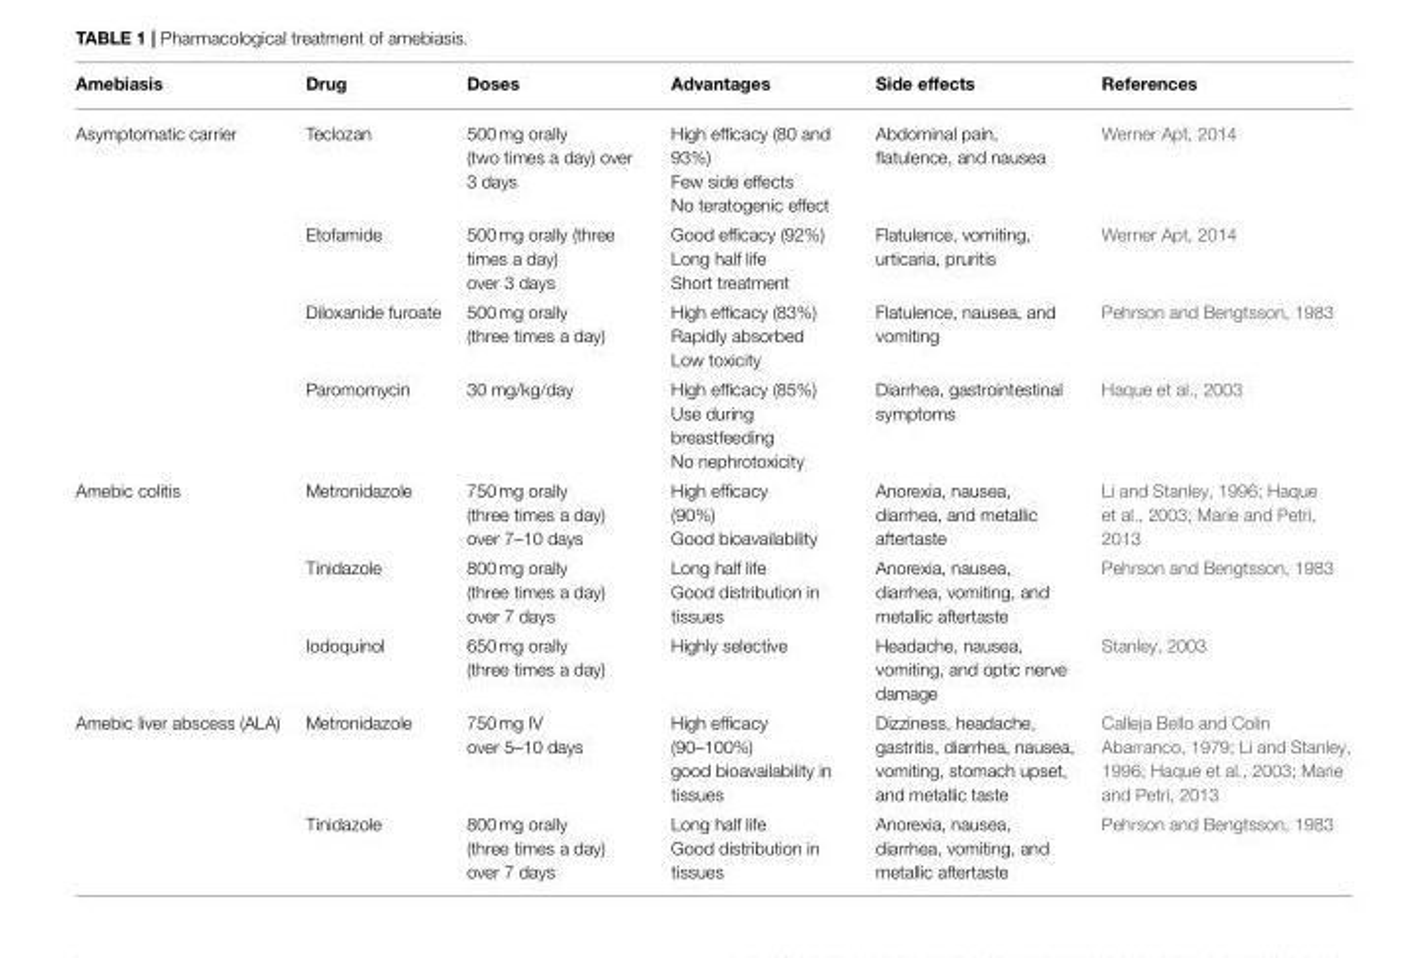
<table><thead><tr><td>Amebiasis</td><td>Drug</td><td>Doses</td><td>Advantages</td><td>Side effects</td><td>References</td></tr></thead><tbody><tr><td rowspan="4">Asymptomatic carrier</td><td>Teclozan</td><td>500 mg orally (two times a day) over 3 days</td><td>High efficacy (80 and 93%) Few side effects No teratogenic effect</td><td>Abdominal pain, flatulence, and nausea</td><td>Werner Apt, 2014</td></tr><tr><td>Etofamide</td><td>500 mg orally (three times a day) over 3 days</td><td>Good efficacy (92%) Long half life Short treatment</td><td>Flatulence, vomiting, urticaria, pruritis</td><td>Werner Apt, 2014</td></tr><tr><td>Diloxanide furoate</td><td>500 mg orally (three times a day)</td><td>High efficacy (83%) Rapidly absorbed Low toxicity</td><td>Flatulence, nausea, and vomiting</td><td>Pehrson and Bengtsson, 1983</td></tr><tr><td>Paromomycin</td><td>30 mg/kg/day</td><td>High efficacy (85%) Use during breastfeeding No nephrotoxicity</td><td>Diarrhea, gastrointestinal symptoms</td><td>Haque et al., 2003</td></tr><tr><td rowspan="3">Amebic colitis</td><td>Metronidazole</td><td>750 mg orally (three times a day) over 7–10 days</td><td>High efficacy (90%) Good bioavailability</td><td>Anorexia, nausea, diarrhea, and metallic aftertaste</td><td>Li and Stanley, 1996; Haque et al., 2003; Marie and Petri, 2013</td></tr><tr><td>Tinidazole</td><td>800 mg orally (three times a day) over 7 days</td><td>Long half life Good distribution in tissues</td><td>Anorexia, nausea, diarrhea, vomiting, and metallic aftertaste</td><td>Pehrson and Bengtsson, 1983</td></tr><tr><td>Iodoquinol</td><td>650 mg orally (three times a day)</td><td>Highly selective</td><td>Headache, nausea, vomiting, and optic nerve damage</td><td>Stanley, 2003</td></tr><tr><td rowspan="2">Amebic liver abscess (ALA)</td><td>Metronidazole</td><td>750 mg IV over 5–10 days</td><td>High efficacy (90–100%) good bioavailability in tissues</td><td>Dizziness, headache, gastritis, diarrhea, nausea, vomiting, stomach upset, and metallic taste</td><td>Calleja Bello and Colin Abarranco, 1979; Li and Stanley, 1996; Haque et al., 2003; Marie and Petri, 2013</td></tr><tr><td>Tinidazole</td><td>800 mg orally (three times a day) over 7 days</td><td>Long half life Good distribution in tissues</td><td>Anorexia, nausea, diarrhea, vomiting, and metallic aftertaste</td><td>Pehrson and Bengtsson, 1983</td></tr></tbody></table>